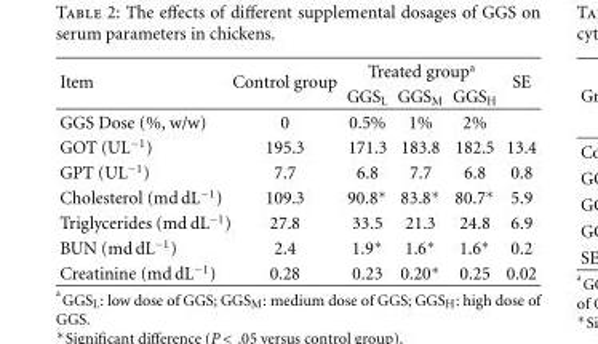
<table><thead><tr><td rowspan="2">Item</td><td rowspan="2">Control group</td><td colspan="3">Treated group<sup>a</sup></td><td rowspan="2">SE</td></tr><tr><td>GGS<sub>L</sub></td><td>GGS<sub>M</sub></td><td>GGS<sub>H</sub></td></tr></thead><tbody><tr><td>GGS Dose (%, w/w)</td><td>0</td><td>0.5%</td><td>1%</td><td>2%</td><td></td></tr><tr><td>GOT (UL<sup>−1</sup>)</td><td>195.3</td><td>171.3</td><td>183.8</td><td>182.5</td><td>13.4</td></tr><tr><td>GPT (UL<sup>−1</sup>)</td><td>7.7</td><td>6.8</td><td>7.7</td><td>6.8</td><td>0.8</td></tr><tr><td>Cholesterol (md dL<sup>−1</sup>)</td><td>109.3</td><td>90.8∗</td><td>83.8∗</td><td>80.7∗</td><td>5.9</td></tr><tr><td>Triglycerides (md dL<sup>−1</sup>)</td><td>27.8</td><td>33.5</td><td>21.3</td><td>24.8</td><td>6.9</td></tr><tr><td>BUN (md dL<sup>−1</sup>)</td><td>2.4</td><td>1.9∗</td><td>1.6∗</td><td>1.6∗</td><td>0.2</td></tr><tr><td>Creatinine (md dL<sup>−1</sup>)</td><td>0.28</td><td>0.23</td><td>0.20∗</td><td>0.25</td><td>0.02</td></tr></tbody></table>